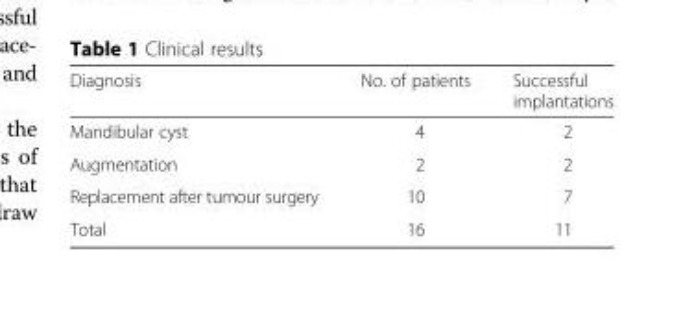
<table><thead><tr><td>Diagnosis</td><td>No. of patients</td><td>Successful implantations</td></tr></thead><tbody><tr><td>Mandibular cyst</td><td>4</td><td>2</td></tr><tr><td>Augmentation</td><td>2</td><td>2</td></tr><tr><td>Replacement after tumour surgery</td><td>10</td><td>7</td></tr><tr><td>Total</td><td>16</td><td>11</td></tr></tbody></table>